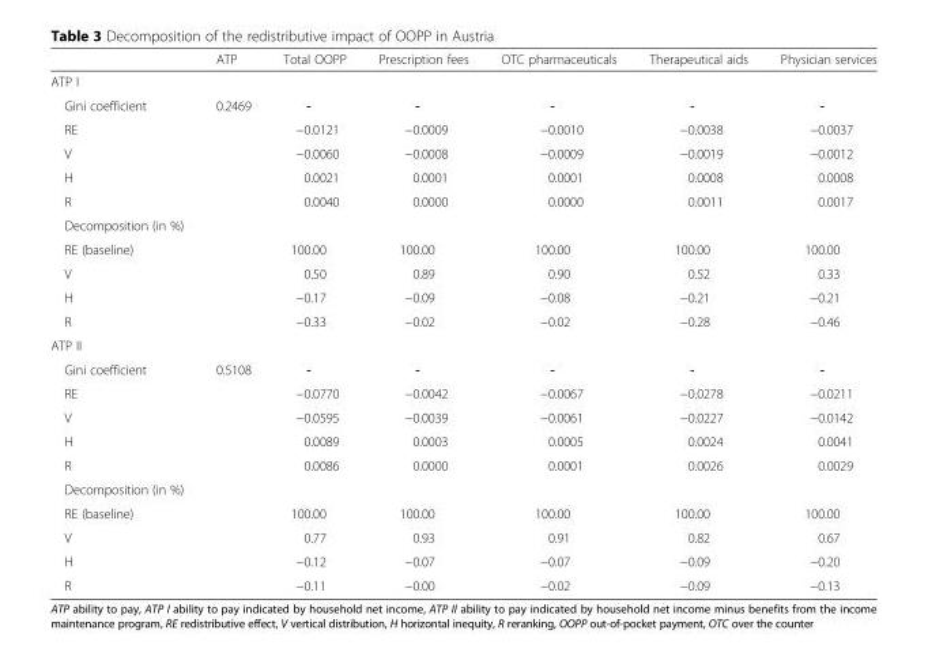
<table><thead><tr><td></td><td>ATP</td><td>Total OOPP</td><td>Prescription fees</td><td>OTC pharmaceuticals</td><td>Therapeutical aids</td><td>Physician services</td></tr></thead><tbody><tr><td colspan="7">ATP I</td></tr><tr><td>Gini coefficient</td><td>0.2469</td><td>-</td><td>-</td><td>-</td><td>-</td><td>-</td></tr><tr><td>RE</td><td></td><td>−0.0121</td><td>−0.0009</td><td>−0.0010</td><td>−0.0038</td><td>−0.0037</td></tr><tr><td>V</td><td></td><td>−0.0060</td><td>−0.0008</td><td>−0.0009</td><td>−0.0019</td><td>−0.0012</td></tr><tr><td>H</td><td></td><td>0.0021</td><td>0.0001</td><td>0.0001</td><td>0.0008</td><td>0.0008</td></tr><tr><td>R</td><td></td><td>0.0040</td><td>0.0000</td><td>0.0000</td><td>0.0011</td><td>0.0017</td></tr><tr><td colspan="7">Decomposition (in %)</td></tr><tr><td>RE (baseline)</td><td></td><td>100.00</td><td>100.00</td><td>100.00</td><td>100.00</td><td>100.00</td></tr><tr><td>V</td><td></td><td>0.50</td><td>0.89</td><td>0.90</td><td>0.52</td><td>0.33</td></tr><tr><td>H</td><td></td><td>−0.17</td><td>−0.09</td><td>−0.08</td><td>−0.21</td><td>−0.21</td></tr><tr><td>R</td><td></td><td>−0.33</td><td>−0.02</td><td>−0.02</td><td>−0.28</td><td>−0.46</td></tr><tr><td colspan="7">ATP II</td></tr><tr><td>Gini coefficient</td><td>0.5108</td><td>-</td><td>-</td><td>-</td><td>-</td><td>-</td></tr><tr><td>RE</td><td></td><td>−0.0770</td><td>−0.0042</td><td>−0.0067</td><td>−0.0278</td><td>−0.0211</td></tr><tr><td>V</td><td></td><td>−0.0595</td><td>−0.0039</td><td>−0.0061</td><td>−0.0227</td><td>−0.0142</td></tr><tr><td>H</td><td></td><td>0.0089</td><td>0.0003</td><td>0.0005</td><td>0.0024</td><td>0.0041</td></tr><tr><td>R</td><td></td><td>0.0086</td><td>0.0000</td><td>0.0001</td><td>0.0026</td><td>0.0029</td></tr><tr><td colspan="7">Decomposition (in %)</td></tr><tr><td>RE (baseline)</td><td></td><td>100.00</td><td>100.00</td><td>100.00</td><td>100.00</td><td>100.00</td></tr><tr><td>V</td><td></td><td>0.77</td><td>0.93</td><td>0.91</td><td>0.82</td><td>0.67</td></tr><tr><td>H</td><td></td><td>−0.12</td><td>−0.07</td><td>−0.07</td><td>−0.09</td><td>−0.20</td></tr><tr><td>R</td><td></td><td>−0.11</td><td>−0.00</td><td>−0.02</td><td>−0.09</td><td>−0.13</td></tr></tbody></table>